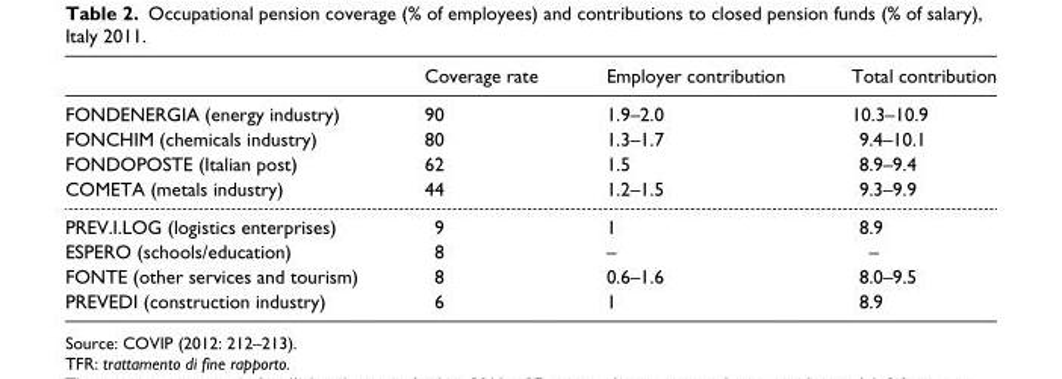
<table><thead><tr><td></td><td>Coverage rate</td><td>Employer contribution</td><td>Total contribution</td></tr></thead><tbody><tr><td>FONDENERGIA (energy industry)</td><td>90</td><td>1.9–2.0</td><td>10.3–10.9</td></tr><tr><td>FONCHIM (chemicals industry)</td><td>80</td><td>1.3–1.7</td><td>9.4–10.1</td></tr><tr><td>FONDOPOSTE (Italian post)</td><td>62</td><td>1.5</td><td>8.9–9.4</td></tr><tr><td>COMETA (metals industry)</td><td>44</td><td>1.2–1.5</td><td>9.3–9.9</td></tr><tr><td>PREV.I.LOG (logistics enterprises)</td><td>9</td><td>1</td><td>8.9</td></tr><tr><td>ESPERO (schools/education)</td><td>8</td><td>–</td><td>–</td></tr><tr><td>FONTE (other services and tourism)</td><td>8</td><td>0.6–1.6</td><td>8.0–9.5</td></tr><tr><td>PREVEDI (construction industry)</td><td>6</td><td>1</td><td>8.9</td></tr></tbody></table>